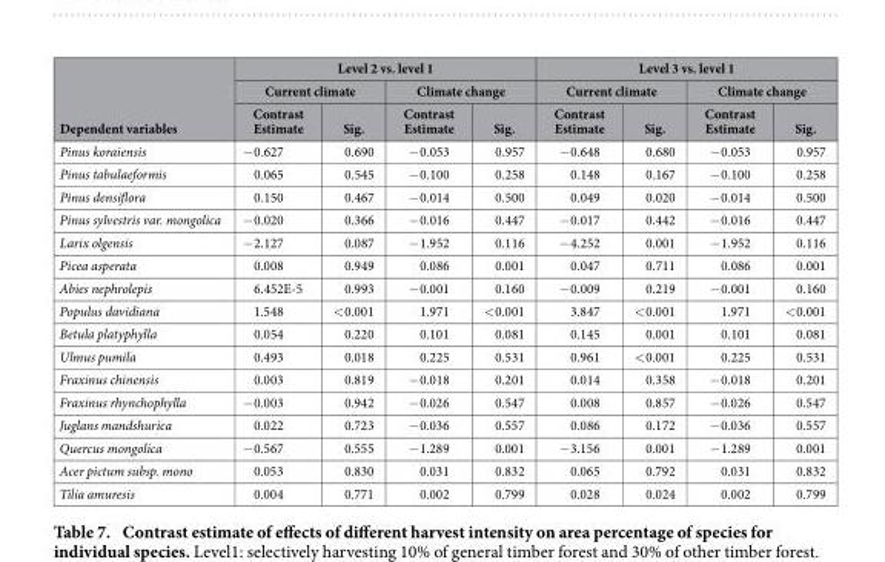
<table><thead><tr><td rowspan="3">Dependent variables</td><td colspan="4">Level 2 vs. level 1</td><td colspan="4">Level 3 vs. level 1</td></tr><tr><td colspan="2">Current climate</td><td colspan="2">Climate change</td><td colspan="2">Current climate</td><td colspan="2">Climate change</td></tr><tr><td>Contrast Estimate</td><td>Sig.</td><td>Contrast Estimate</td><td>Sig.</td><td>Contrast Estimate</td><td>Sig.</td><td>Contrast Estimate</td><td>Sig.</td></tr></thead><tbody><tr><td>Pinus koraiensis</td><td>− 0.627</td><td>0.690</td><td>− 0.053</td><td>0.957</td><td>− 0.648</td><td>0.680</td><td>− 0.053</td><td>0.957</td></tr><tr><td>Pinus tabulaeformis</td><td>0.065</td><td>0.545</td><td>− 0.100</td><td>0.258</td><td>0.148</td><td>0.167</td><td>− 0.100</td><td>0.258</td></tr><tr><td>Pinus densiflora</td><td>0.150</td><td>0.467</td><td>− 0.014</td><td>0.500</td><td>0.049</td><td>0.020</td><td>− 0.014</td><td>0.500</td></tr><tr><td>Pinus sylvestris var. mongolica</td><td>− 0.020</td><td>0.366</td><td>− 0.016</td><td>0.447</td><td>− 0.017</td><td>0.442</td><td>− 0.016</td><td>0.447</td></tr><tr><td>Larix olgensis</td><td>− 2.127</td><td>0.087</td><td>− 1.952</td><td>0.116</td><td>− 4.252</td><td>0.001</td><td>− 1.952</td><td>0.116</td></tr><tr><td>Picea asperata</td><td>0.008</td><td>0.949</td><td>0.086</td><td>0.001</td><td>0.047</td><td>0.711</td><td>0.086</td><td>0.001</td></tr><tr><td>Abies nephrolepis</td><td>6.452E-5</td><td>0.993</td><td>− 0.001</td><td>0.160</td><td>− 0.009</td><td>0.219</td><td>− 0.001</td><td>0.160</td></tr><tr><td>Populus davidiana</td><td>1.548</td><td>&lt; 0.001</td><td>1.971</td><td>&lt; 0.001</td><td>3.847</td><td>&lt; 0.001</td><td>1.971</td><td>&lt; 0.001</td></tr><tr><td>Betula platyphylla</td><td>0.054</td><td>0.220</td><td>0.101</td><td>0.081</td><td>0.145</td><td>0.001</td><td>0.101</td><td>0.081</td></tr><tr><td>Ulmus pumila</td><td>0.493</td><td>0.018</td><td>0.225</td><td>0.531</td><td>0.961</td><td>&lt; 0.001</td><td>0.225</td><td>0.531</td></tr><tr><td>Fraxinus chinensis</td><td>0.003</td><td>0.819</td><td>− 0.018</td><td>0.201</td><td>0.014</td><td>0.358</td><td>− 0.018</td><td>0.201</td></tr><tr><td>Fraxinus rhynchophylla</td><td>− 0.003</td><td>0.942</td><td>− 0.026</td><td>0.547</td><td>0.008</td><td>0.857</td><td>− 0.026</td><td>0.547</td></tr><tr><td>Juglans mandshurica</td><td>0.022</td><td>0.723</td><td>− 0.036</td><td>0.557</td><td>0.086</td><td>0.172</td><td>− 0.036</td><td>0.557</td></tr><tr><td>Quercus mongolica</td><td>− 0.567</td><td>0.555</td><td>− 1.289</td><td>0.001</td><td>− 3.156</td><td>0.001</td><td>− 1.289</td><td>0.001</td></tr><tr><td>Acer pictum subsp. mono</td><td>0.053</td><td>0.830</td><td>0.031</td><td>0.832</td><td>0.065</td><td>0.792</td><td>0.031</td><td>0.832</td></tr><tr><td>Tilia amuresis</td><td>0.004</td><td>0.771</td><td>0.002</td><td>0.799</td><td>0.028</td><td>0.024</td><td>0.002</td><td>0.799</td></tr></tbody></table>